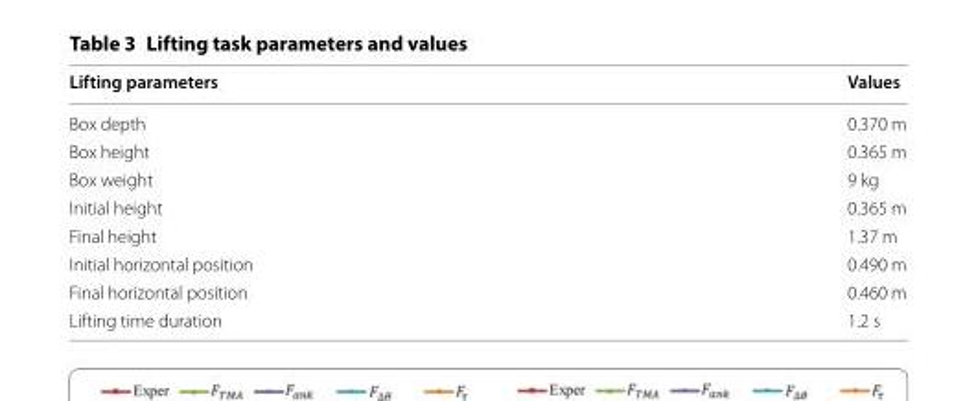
<table><thead><tr><td>Lifting parameters</td><td>Values</td></tr></thead><tbody><tr><td>Box depth</td><td>0.370 m</td></tr><tr><td>Box height</td><td>0.365 m</td></tr><tr><td>Box weight</td><td>9 kg</td></tr><tr><td>Initial height</td><td>0.365 m</td></tr><tr><td>Final height</td><td>1.37 m</td></tr><tr><td>Initial horizontal position</td><td>0.490 m</td></tr><tr><td>Final horizontal position</td><td>0.460 m</td></tr><tr><td>Lifting time duration</td><td>1.2 s</td></tr></tbody></table>